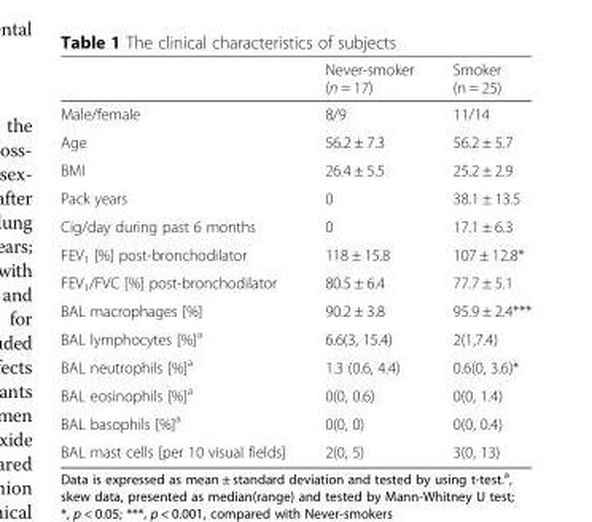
<table><thead><tr><td></td><td>Never-smoker (n = 17)</td><td>Smoker (n = 25)</td></tr></thead><tbody><tr><td>Male/female</td><td>8/9</td><td>11/14</td></tr><tr><td>Age</td><td>56.2 ± 7.3</td><td>56.2 ± 5.7</td></tr><tr><td>BMI</td><td>26.4 ± 5.5</td><td>25.2 ± 2.9</td></tr><tr><td>Pack years</td><td>0</td><td>38.1 ± 13.5</td></tr><tr><td>Cig/day during past 6 months</td><td>0</td><td>17.1 ± 6.3</td></tr><tr><td>FEV<sub>1</sub> [%] post-bronchodilator</td><td>118 ± 15.8</td><td>107 ± 12.8*</td></tr><tr><td>FEV<sub>1</sub>/FVC [%] post-bronchodilator</td><td>80.5 ± 6.4</td><td>77.7 ± 5.1</td></tr><tr><td>BAL macrophages [%]</td><td>90.2 ± 3.8</td><td>95.9 ± 2.4***</td></tr><tr><td>BAL lymphocytes [%]<sup>a</sup></td><td>6.6(3, 15.4)</td><td>2(1,7.4)</td></tr><tr><td>BAL neutrophils [%]<sup>a</sup></td><td>1.3 (0.6, 4.4)</td><td>0.6(0, 3.6)*</td></tr><tr><td>BAL eosinophils [%]<sup>a</sup></td><td>0(0, 0.6)</td><td>0(0, 1.4)</td></tr><tr><td>BAL basophils [%]<sup>a</sup></td><td>0(0, 0)</td><td>0(0, 0.4)</td></tr><tr><td>BAL mast cells [per 10 visual fields]</td><td>2(0, 5)</td><td>3(0, 13)</td></tr></tbody></table>